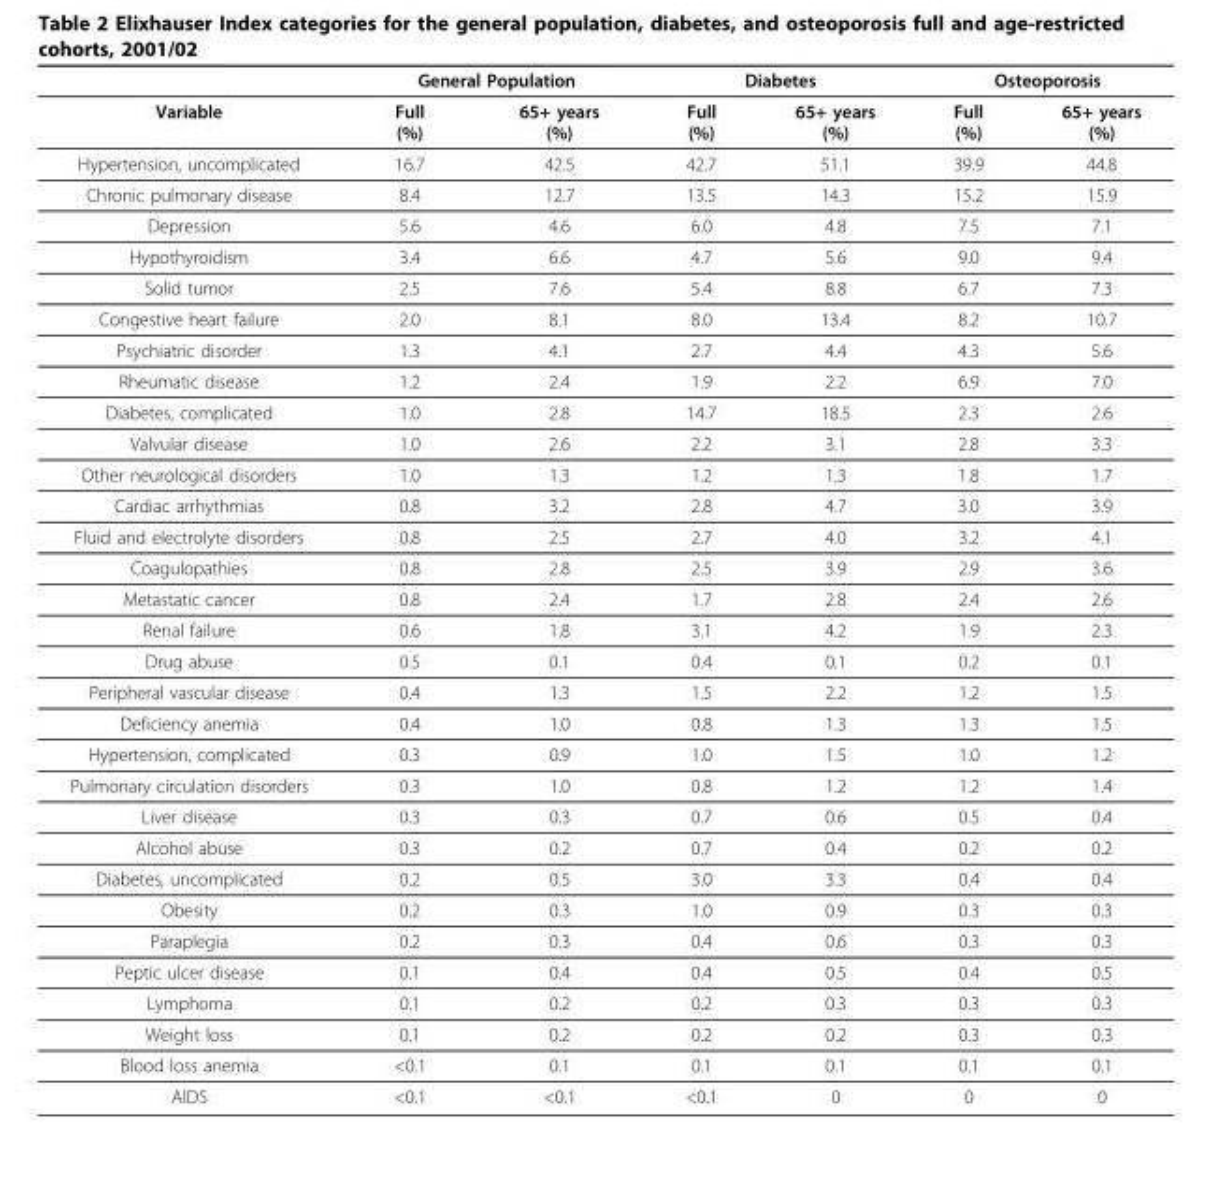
<table><thead><tr><td rowspan="2">Variable</td><td colspan="2">General Population</td><td colspan="2">Diabetes</td><td colspan="2">Osteoporosis</td></tr><tr><td>Full (%)</td><td>65+ years (%)</td><td>Full (%)</td><td>65+ years (%)</td><td>Full (%)</td><td>65+ years (%)</td></tr></thead><tbody><tr><td>Hypertension, uncomplicated</td><td>16.7</td><td>42.5</td><td>42.7</td><td>51.1</td><td>39.9</td><td>44.8</td></tr><tr><td>Chronic pulmonary disease</td><td>8.4</td><td>12.7</td><td>13.5</td><td>14.3</td><td>15.2</td><td>15.9</td></tr><tr><td>Depression</td><td>5.6</td><td>4.6</td><td>6.0</td><td>4.8</td><td>7.5</td><td>7.1</td></tr><tr><td>Hypothyroidism</td><td>3.4</td><td>6.6</td><td>4.7</td><td>5.6</td><td>9.0</td><td>9.4</td></tr><tr><td>Solid tumor</td><td>2.5</td><td>7.6</td><td>5.4</td><td>8.8</td><td>6.7</td><td>7.3</td></tr><tr><td>Congestive heart failure</td><td>2.0</td><td>8.1</td><td>8.0</td><td>13.4</td><td>8.2</td><td>10.7</td></tr><tr><td>Psychiatric disorder</td><td>1.3</td><td>4.1</td><td>2.7</td><td>4.4</td><td>4.3</td><td>5.6</td></tr><tr><td>Rheumatic disease</td><td>1.2</td><td>2.4</td><td>1.9</td><td>2.2</td><td>6.9</td><td>7.0</td></tr><tr><td>Diabetes, complicated</td><td>1.0</td><td>2.8</td><td>14.7</td><td>18.5</td><td>2.3</td><td>2.6</td></tr><tr><td>Valvular disease</td><td>1.0</td><td>2.6</td><td>2.2</td><td>3.1</td><td>2.8</td><td>3.3</td></tr><tr><td>Other neurological disorders</td><td>1.0</td><td>1.3</td><td>1.2</td><td>1.3</td><td>1.8</td><td>1.7</td></tr><tr><td>Cardiac arrhythmias</td><td>0.8</td><td>3.2</td><td>2.8</td><td>4.7</td><td>3.0</td><td>3.9</td></tr><tr><td>Fluid and electrolyte disorders</td><td>0.8</td><td>2.5</td><td>2.7</td><td>4.0</td><td>3.2</td><td>4.1</td></tr><tr><td>Coagulopathies</td><td>0.8</td><td>2.8</td><td>2.5</td><td>3.9</td><td>2.9</td><td>3.6</td></tr><tr><td>Metastatic cancer</td><td>0.8</td><td>2.4</td><td>1.7</td><td>2.8</td><td>2.4</td><td>2.6</td></tr><tr><td>Renal failure</td><td>0.6</td><td>1.8</td><td>3.1</td><td>4.2</td><td>1.9</td><td>2.3</td></tr><tr><td>Drug abuse</td><td>0.5</td><td>0.1</td><td>0.4</td><td>0.1</td><td>0.2</td><td>0.1</td></tr><tr><td>Peripheral vascular disease</td><td>0.4</td><td>1.3</td><td>1.5</td><td>2.2</td><td>1.2</td><td>1.5</td></tr><tr><td>Deficiency anemia</td><td>0.4</td><td>1.0</td><td>0.8</td><td>1.3</td><td>1.3</td><td>1.5</td></tr><tr><td>Hypertension, complicated</td><td>0.3</td><td>0.9</td><td>1.0</td><td>1.5</td><td>1.0</td><td>1.2</td></tr><tr><td>Pulmonary circulation disorders</td><td>0.3</td><td>1.0</td><td>0.8</td><td>1.2</td><td>1.2</td><td>1.4</td></tr><tr><td>Liver disease</td><td>0.3</td><td>0.3</td><td>0.7</td><td>0.6</td><td>0.5</td><td>0.4</td></tr><tr><td>Alcohol abuse</td><td>0.3</td><td>0.2</td><td>0.7</td><td>0.4</td><td>0.2</td><td>0.2</td></tr><tr><td>Diabetes, uncomplicated</td><td>0.2</td><td>0.5</td><td>3.0</td><td>3.3</td><td>0.4</td><td>0.4</td></tr><tr><td>Obesity</td><td>0.2</td><td>0.3</td><td>1.0</td><td>0.9</td><td>0.3</td><td>0.3</td></tr><tr><td>Paraplegia</td><td>0.2</td><td>0.3</td><td>0.4</td><td>0.6</td><td>0.3</td><td>0.3</td></tr><tr><td>Peptic ulcer disease</td><td>0.1</td><td>0.4</td><td>0.4</td><td>0.5</td><td>0.4</td><td>0.5</td></tr><tr><td>Lymphoma</td><td>0.1</td><td>0.2</td><td>0.2</td><td>0.3</td><td>0.3</td><td>0.3</td></tr><tr><td>Weight loss</td><td>0.1</td><td>0.2</td><td>0.2</td><td>0.2</td><td>0.3</td><td>0.3</td></tr><tr><td>Blood loss anemia</td><td>&lt;0.1</td><td>0.1</td><td>0.1</td><td>0.1</td><td>0.1</td><td>0.1</td></tr><tr><td>AIDS</td><td>&lt;0.1</td><td>&lt;0.1</td><td>&lt;0.1</td><td>0</td><td>0</td><td>0</td></tr></tbody></table>